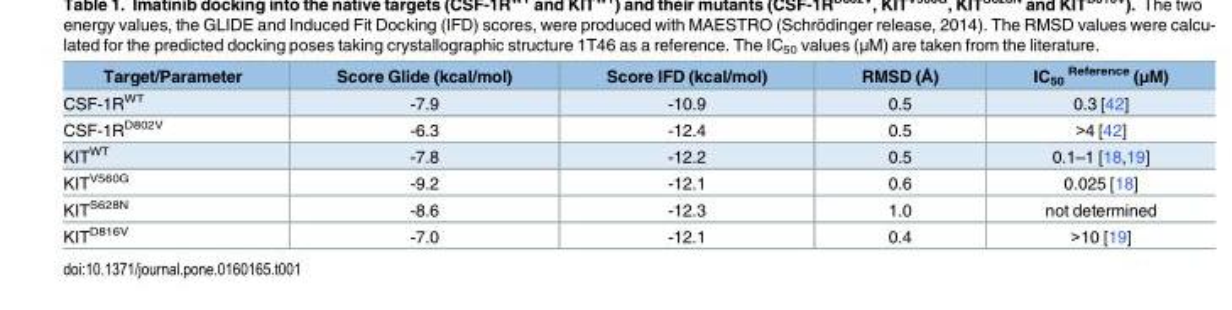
<table><thead><tr><td>Target/Parameter</td><td>Score Glide (kcal/mol)</td><td>Score IFD (kcal/mol)</td><td>RMSD (Å)</td><td>IC<sub>50</sub> <sup>Reference</sup> (μM)</td></tr></thead><tbody><tr><td>CSF-1R<sup>WT</sup></td><td>-7.9</td><td>-10.9</td><td>0.5</td><td>0.3 [42]</td></tr><tr><td>CSF-1R<sup>D802V</sup></td><td>-6.3</td><td>-12.4</td><td>0.5</td><td>&gt;4 [42]</td></tr><tr><td>KIT<sup>WT</sup></td><td>-7.8</td><td>-12.2</td><td>0.5</td><td>0.1–1 [18,19]</td></tr><tr><td>KIT<sup>V560G</sup></td><td>-9.2</td><td>-12.1</td><td>0.6</td><td>0.025 [18]</td></tr><tr><td>KIT<sup>S628N</sup></td><td>-8.6</td><td>-12.3</td><td>1.0</td><td>not determined</td></tr><tr><td>KIT<sup>D816V</sup></td><td>-7.0</td><td>-12.1</td><td>0.4</td><td>&gt;10 [19]</td></tr></tbody></table>